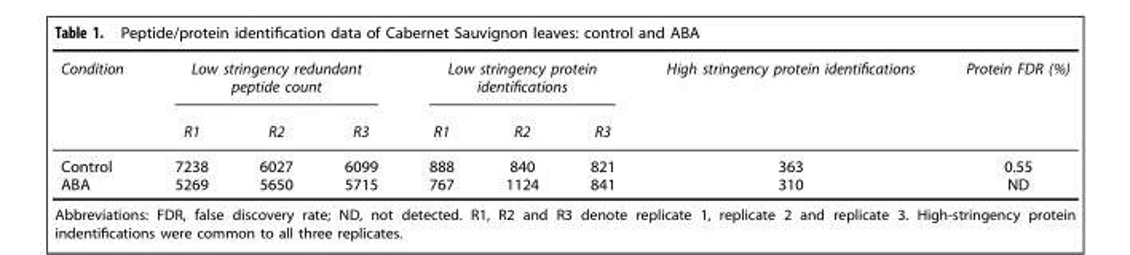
<table><thead><tr><td rowspan="2">Condition</td><td colspan="3">Low stringency redundant peptide count</td><td colspan="3">Low stringency protein identifications</td><td rowspan="2">High stringency protein identifications</td><td rowspan="2">Protein FDR (%)</td></tr><tr><td>R1</td><td>R2</td><td>R3</td><td>R1</td><td>R2</td><td>R3</td></tr></thead><tbody><tr><td>Control</td><td>7238</td><td>6027</td><td>6099</td><td>888</td><td>840</td><td>821</td><td>363</td><td>0.55</td></tr><tr><td>ABA</td><td>5269</td><td>5650</td><td>5715</td><td>767</td><td>1124</td><td>841</td><td>310</td><td>ND</td></tr></tbody></table>